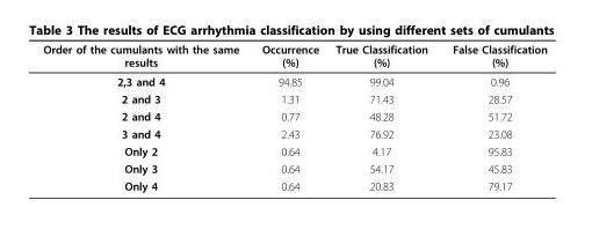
<table><thead><tr><td>Order of the cumulants with the same results</td><td>Occurrence (%)</td><td>True Classification (%)</td><td>False Classification (%)</td></tr></thead><tbody><tr><td>2,3 and 4</td><td>94.85</td><td>99.04</td><td>0.96</td></tr><tr><td>2 and 3</td><td>1.31</td><td>71.43</td><td>28.57</td></tr><tr><td>2 and 4</td><td>0.77</td><td>48.28</td><td>51.72</td></tr><tr><td>3 and 4</td><td>2.43</td><td>76.92</td><td>23.08</td></tr><tr><td>Only 2</td><td>0.64</td><td>4.17</td><td>95.83</td></tr><tr><td>Only 3</td><td>0.64</td><td>54.17</td><td>45.83</td></tr><tr><td>Only 4</td><td>0.64</td><td>20.83</td><td>79.17</td></tr></tbody></table>